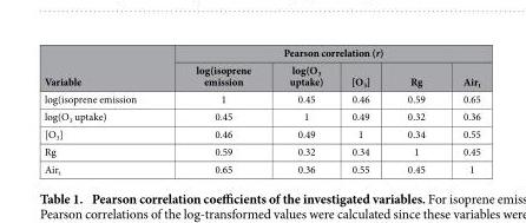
<table><thead><tr><td rowspan="2">Variable</td><td colspan="5">Pearson correlation (r)</td></tr><tr><td>log(isoprene emission</td><td>log(O<sub>3</sub> uptake)</td><td>[O<sub>3</sub>]</td><td>Rg</td><td>Air<sub>t</sub></td></tr></thead><tbody><tr><td>log(isoprene emission</td><td>1</td><td>0.45</td><td>0.46</td><td>0.59</td><td>0.65</td></tr><tr><td>log(O<sub>3</sub> uptake)</td><td>0.45</td><td>1</td><td>0.49</td><td>0.32</td><td>0.36</td></tr><tr><td>[O<sub>3</sub>]</td><td>0.46</td><td>0.49</td><td>1</td><td>0.34</td><td>0.55</td></tr><tr><td>Rg</td><td>0.59</td><td>0.32</td><td>0.34</td><td>1</td><td>0.45</td></tr><tr><td>Air<sub>t</sub></td><td>0.65</td><td>0.36</td><td>0.55</td><td>0.45</td><td>1</td></tr></tbody></table>